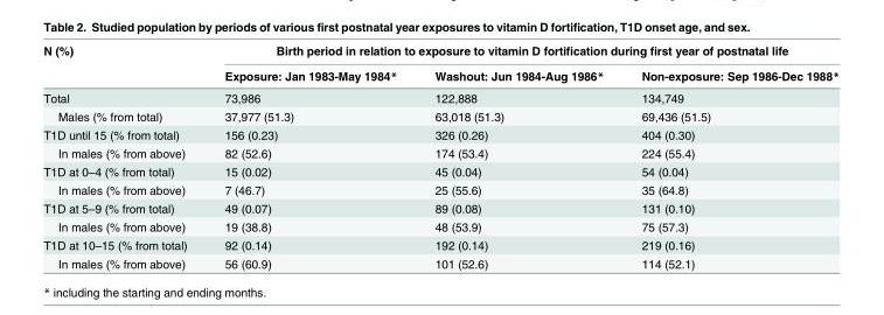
<table><thead><tr><td rowspan="2">N (%)</td><td colspan="3">Birth period in relation to exposure to vitamin D fortification during first year of postnatal life</td></tr><tr><td>Exposure: Jan 1983-May 1984*</td><td>Washout: Jun 1984-Aug 1986*</td><td>Non-exposure: Sep 1986-Dec 1988*</td></tr></thead><tbody><tr><td>Total</td><td>73,986</td><td>122,888</td><td>134,749</td></tr><tr><td>Males (% from total)</td><td>37,977 (51.3)</td><td>63,018 (51.3)</td><td>69,436 (51.5)</td></tr><tr><td>T1D until 15 (% from total)</td><td>156 (0.23)</td><td>326 (0.26)</td><td>404 (0.30)</td></tr><tr><td>In males (% from above)</td><td>82 (52.6)</td><td>174 (53.4)</td><td>224 (55.4)</td></tr><tr><td>T1D at 0–4 (% from total)</td><td>15 (0.02)</td><td>45 (0.04)</td><td>54 (0.04)</td></tr><tr><td>In males (% from above)</td><td>7 (46.7)</td><td>25 (55.6)</td><td>35 (64.8)</td></tr><tr><td>T1D at 5–9 (% from total)</td><td>49 (0.07)</td><td>89 (0.08)</td><td>131 (0.10)</td></tr><tr><td>In males (% from above)</td><td>19 (38.8)</td><td>48 (53.9)</td><td>75 (57.3)</td></tr><tr><td>T1D at 10–15 (% from total)</td><td>92 (0.14)</td><td>192 (0.14)</td><td>219 (0.16)</td></tr><tr><td>In males (% from above)</td><td>56 (60.9)</td><td>101 (52.6)</td><td>114 (52.1)</td></tr></tbody></table>